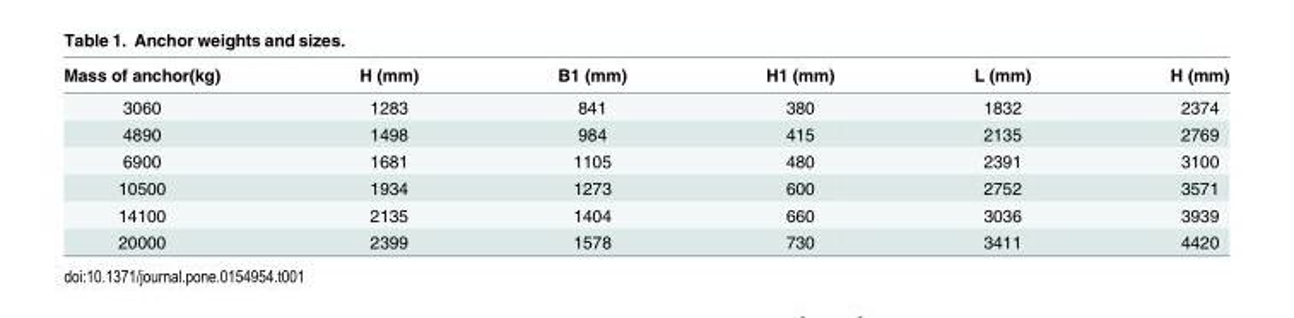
<table><thead><tr><td>Mass of anchor(kg)</td><td>H (mm)</td><td>B1 (mm)</td><td>H1 (mm)</td><td>L (mm)</td><td>H (mm)</td></tr></thead><tbody><tr><td>3060</td><td>1283</td><td>841</td><td>380</td><td>1832</td><td>2374</td></tr><tr><td>4890</td><td>1498</td><td>984</td><td>415</td><td>2135</td><td>2769</td></tr><tr><td>6900</td><td>1681</td><td>1105</td><td>480</td><td>2391</td><td>3100</td></tr><tr><td>10500</td><td>1934</td><td>1273</td><td>600</td><td>2752</td><td>3571</td></tr><tr><td>14100</td><td>2135</td><td>1404</td><td>660</td><td>3036</td><td>3939</td></tr><tr><td>20000</td><td>2399</td><td>1578</td><td>730</td><td>3411</td><td>4420</td></tr></tbody></table>